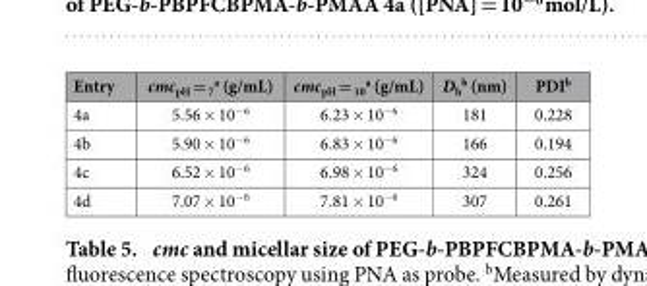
<table><thead><tr><td>Entry</td><td>cmc<sub>pH</sub> = <sub>7</sub> <sup>a</sup> (g/mL)</td><td>cmc<sub>pH</sub> = <sub>10</sub> <sup>a</sup> (g/mL)</td><td>D<sub>h</sub> <sup>b</sup> (nm)</td><td>PDI<sup>b</sup></td></tr></thead><tbody><tr><td>4a</td><td>5.56 × 10<sup>−6</sup></td><td>6.23 × 10<sup>−6</sup></td><td>181</td><td>0.228</td></tr><tr><td>4b</td><td>5.90 × 10<sup>−6</sup></td><td>6.83 × 10<sup>−6</sup></td><td>166</td><td>0.194</td></tr><tr><td>4c</td><td>6.52 × 10<sup>−6</sup></td><td>6.98 × 10<sup>−6</sup></td><td>324</td><td>0.256</td></tr><tr><td>4d</td><td>7.07 × 10<sup>−6</sup></td><td>7.81 × 10<sup>−6</sup></td><td>307</td><td>0.261</td></tr></tbody></table>